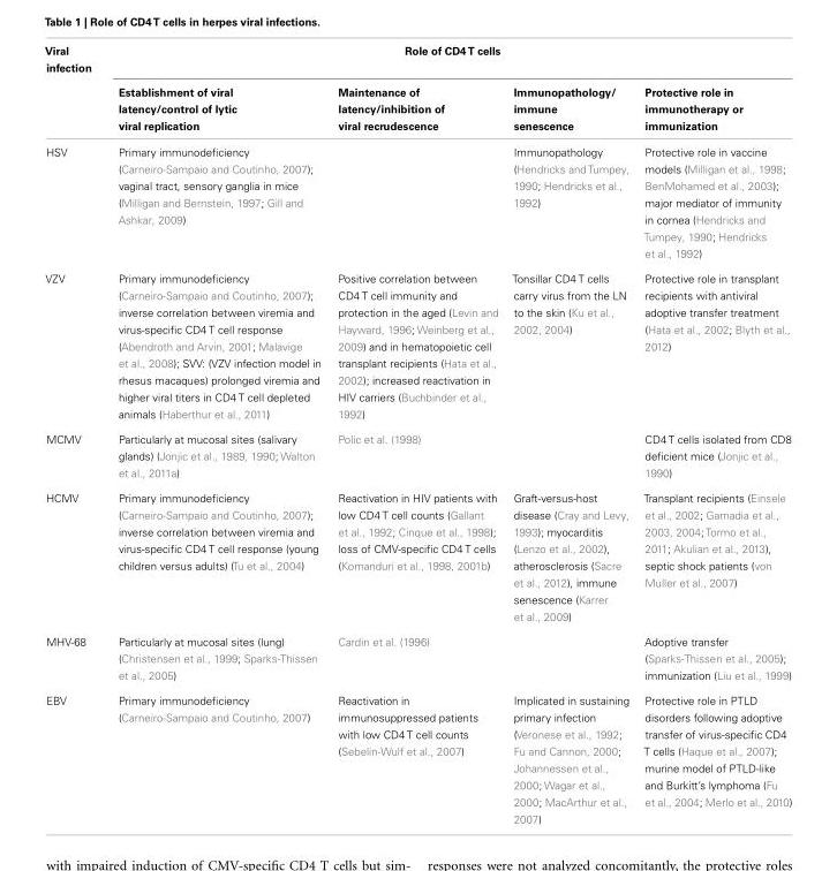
<table><thead><tr><td rowspan="2">Viral infection</td><td colspan="4">Role of CD4T cells</td></tr><tr><td>Establishment of viral latency/control of lytic viral replication</td><td>Maintenance of latency/inhibition of viral recrudescence</td><td>Immunopathology/ immune senescence</td><td>Protective role in immunotherapy or immunization</td></tr></thead><tbody><tr><td>HSV</td><td>Primary immunodeficiency (Carneiro-Sampaio and Coutinho, 2007); vaginal tract, sensory ganglia in mice (Milligan and Bernstein, 1997; Gill and Ashkar, 2009)</td><td></td><td>Immunopathology (Hendricks and Tumpey, 1990; Hendricks et al., 1992)</td><td>Protective role in vaccine models (Milligan et al., 1998; BenMohamed et al., 2003); major mediator of immunity in cornea (Hendricks and Tumpey, 1990; Hendricks et al., 1992)</td></tr><tr><td>VZV</td><td>Primary immunodeficiency (Carneiro-Sampaio and Coutinho, 2007); inverse correlation between viremia and virus-specific CD4 T cell response (Abendroth and Arvin, 2001; Malavige et al., 2008); SVV: (VZV infection model in rhesus macaques) prolonged viremia and higher viral titers in CD4 T cell depleted animals (Haberthur et al., 2011)</td><td>Positive correlation between CD4 T cell immunity and protection in the aged (Levin and Hayward, 1996; Weinberg et al., 2009) and in hematopoietic cell transplant recipients (Hata et al., 2002); increased reactivation in HIV carriers (Buchbinder et al., 1992)</td><td>Tonsillar CD4 T cells carry virus from the LN to the skin (Ku et al., 2002, 2004)</td><td>Protective role in transplant recipients with antiviral adoptive transfer treatment (Hata et al., 2002; Blyth et al., 2012)</td></tr><tr><td>MCMV</td><td>Particularly at mucosal sites (salivary glands) (Jonjic et al., 1989, 1990; Walton et al., 2011a)</td><td>Polic et al. (1998)</td><td></td><td>CD4 T cells isolated from CD8 deficient mice (Jonjic et al., 1990)</td></tr><tr><td>HCMV</td><td>Primary immunodeficiency (Carneiro-Sampaio and Coutinho, 2007); inverse correlation between viremia and virus-specific CD4 T cell response (young children versus adults) (Tu et al., 2004)</td><td>Reactivation in HIV patients with low CD4 T cell counts (Gallant et al., 1992; Cinque et al., 1998); loss of CMV-specific CD4 T cells (Komanduri et al., 1998, 2001b)</td><td>Graft-versus-host disease (Cray and Levy, 1993); myocarditis (Lenzo et al., 2002), atherosclerosis (Sacre et al., 2012), immune senescence (Karrer et al., 2009)</td><td>Transplant recipients (Einsele et al., 2002; Gamadia et al., 2003, 2004; Tormo et al., 2011; Akulian et al., 2013), septic shock patients (von Muller et al., 2007)</td></tr><tr><td>MHV-68</td><td>Particularly at mucosal sites (lung) (Christensen et al., 1999; Sparks-Thissen et al., 2005)</td><td>Cardin et al. (1996)</td><td></td><td>Adoptive transfer (Sparks-Thissen et al., 2005); immunization (Liu et al., 1999)</td></tr><tr><td>EBV</td><td>Primary immunodeficiency (Carneiro-Sampaio and Coutinho, 2007)</td><td>Reactivation in immunosuppressed patients with low CD4 T cell counts (Sebelin-Wulf et al., 2007)</td><td>Implicated in sustaining primary infection (Veronese et al., 1992; Fu and Cannon, 2000; Johannessen et al., 2000; Wagar et al., 2000; MacArthur et al., 2007)</td><td>Protective role in PTLD disorders following adoptive transfer of virus-specific CD4 T cells (Haque et al., 2007); murine model of PTLD-like and Burkitt’s lymphoma (Fu et al., 2004; Merlo et al., 2010)</td></tr></tbody></table>